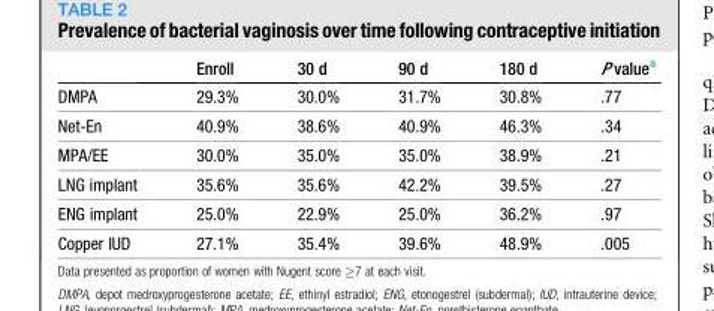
<table><thead><tr><td></td><td>Enroll</td><td>30 d</td><td>90 d</td><td>180 d</td><td>P value<sup>a</sup></td></tr></thead><tbody><tr><td>DMPA</td><td>29.3%</td><td>30.0%</td><td>31.7%</td><td>30.8%</td><td>.77</td></tr><tr><td>Net-En</td><td>40.9%</td><td>38.6%</td><td>40.9%</td><td>46.3%</td><td>.34</td></tr><tr><td>MPA/EE</td><td>30.0%</td><td>35.0%</td><td>35.0%</td><td>38.9%</td><td>.21</td></tr><tr><td>LNG implant</td><td>35.6%</td><td>35.6%</td><td>42.2%</td><td>39.5%</td><td>.27</td></tr><tr><td>ENG implant</td><td>25.0%</td><td>22.9%</td><td>25.0%</td><td>36.2%</td><td>.97</td></tr><tr><td>Copper IUD</td><td>27.1%</td><td>35.4%</td><td>39.6%</td><td>48.9%</td><td>.005</td></tr></tbody></table>